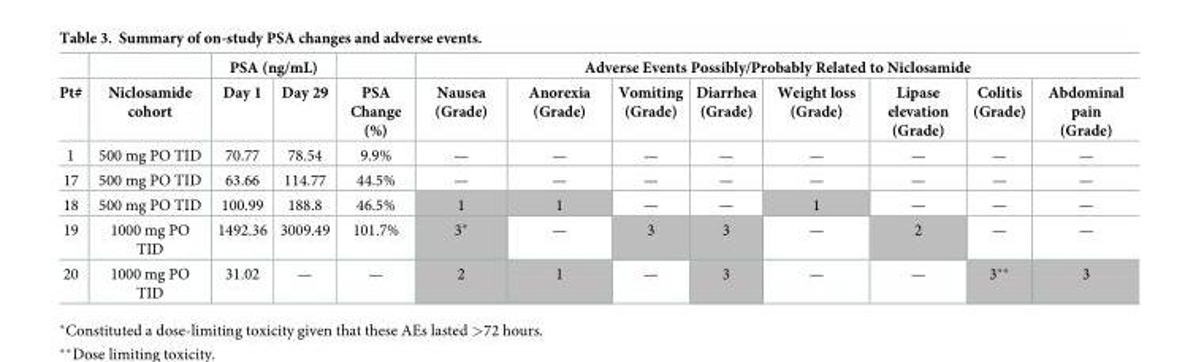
<table><thead><tr><td rowspan="2">Pt#</td><td rowspan="2">Niclosamide cohort</td><td colspan="2">PSA (ng/mL)</td><td rowspan="2">PSA Change (%)</td><td colspan="8">Adverse Events Possibly/Probably Related to Niclosamide</td></tr><tr><td>Day 1</td><td>Day 29</td><td>Nausea (Grade)</td><td>Anorexia (Grade)</td><td>Vomiting (Grade)</td><td>Diarrhea (Grade)</td><td>Weight loss (Grade)</td><td>Lipase elevation (Grade)</td><td>Colitis (Grade)</td><td>Abdominal pain (Grade)</td></tr></thead><tbody><tr><td>1</td><td>500 mg PO TID</td><td>70.77</td><td>78.54</td><td>9.9%</td><td>—</td><td>—</td><td>—</td><td>—</td><td>—</td><td>—</td><td>—</td><td>—</td></tr><tr><td>17</td><td>500 mg PO TID</td><td>63.66</td><td>114.77</td><td>44.5%</td><td>—</td><td>—</td><td>—</td><td>—</td><td>—</td><td>—</td><td>—</td><td>—</td></tr><tr><td>18</td><td>500 mg PO TID</td><td>100.99</td><td>188.8</td><td>46.5%</td><td>1</td><td>1</td><td>—</td><td>—</td><td>1</td><td>—</td><td>—</td><td>—</td></tr><tr><td>19</td><td>1000 mg PO TID</td><td>1492.36</td><td>3009.49</td><td>101.7%</td><td>3*</td><td>—</td><td>3</td><td>3</td><td>—</td><td>2</td><td>—</td><td>—</td></tr><tr><td>20</td><td>1000 mg PO TID</td><td>31.02</td><td>—</td><td>—</td><td>2</td><td>1</td><td>—</td><td>3</td><td>—</td><td>—</td><td>3**</td><td>3</td></tr></tbody></table>